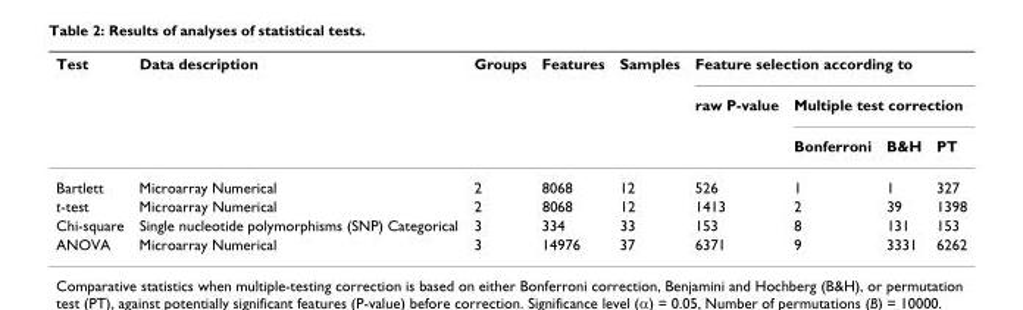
<table><thead><tr><td rowspan="3">Test</td><td rowspan="3">Data description</td><td rowspan="3">Groups</td><td rowspan="3">Features</td><td rowspan="3">Samples</td><td colspan="4">Feature selection according to</td></tr><tr><td rowspan="2">raw P-value</td><td colspan="3">Multiple test correction</td></tr><tr><td>Bonferroni</td><td>B&amp;H</td><td>PT</td></tr></thead><tbody><tr><td>Bartlett</td><td>Microarray Numerical</td><td>2</td><td>8068</td><td>12</td><td>526</td><td>1</td><td>1</td><td>327</td></tr><tr><td>t-test</td><td>Microarray Numerical</td><td>2</td><td>8068</td><td>12</td><td>1413</td><td>2</td><td>39</td><td>1398</td></tr><tr><td>Chi-square</td><td>Single nucleotide polymorphisms (SNP) Categorical</td><td>3</td><td>334</td><td>33</td><td>153</td><td>8</td><td>131</td><td>153</td></tr><tr><td>ANOVA</td><td>Microarray Numerical</td><td>3</td><td>14976</td><td>37</td><td>6371</td><td>9</td><td>3331</td><td>6262</td></tr></tbody></table>